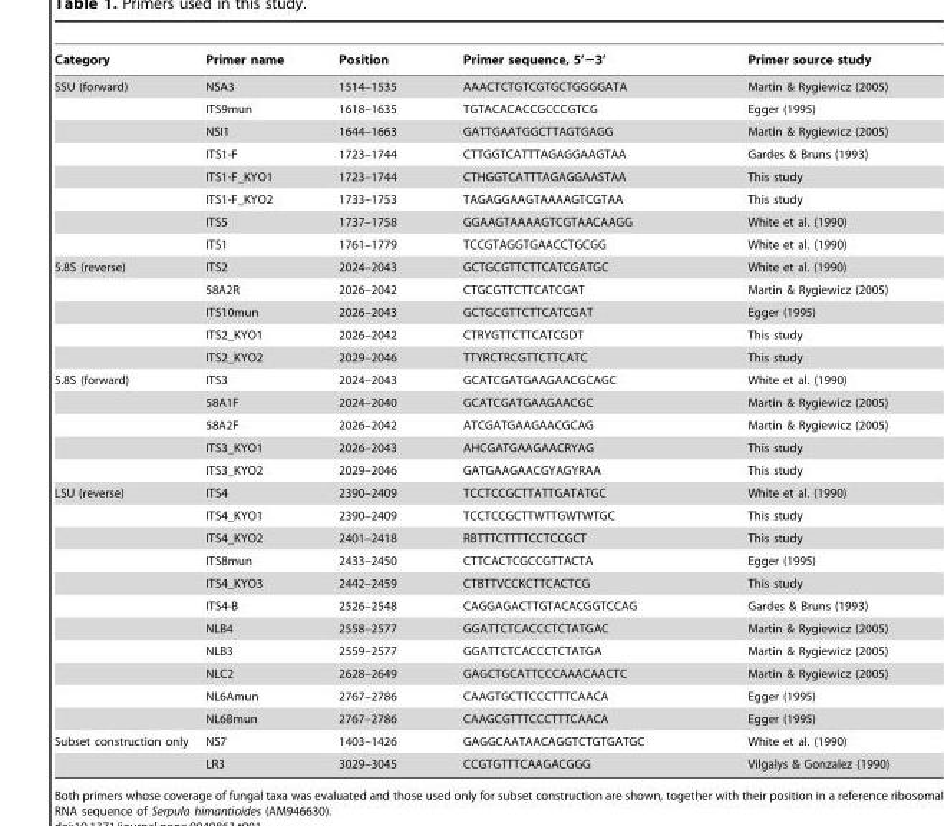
<table><thead><tr><td>Category</td><td>Primer name</td><td>Position</td><td>Primer sequence, 5’−3’</td><td>Primer source study</td></tr></thead><tbody><tr><td rowspan="8">SSU (forward)</td><td>NSA3</td><td>1514–1535</td><td>AAACTCTGTCGTGCTGGGGATA</td><td>Martin &amp; Rygiewicz (2005)</td></tr><tr><td>ITS9mun</td><td>1618–1635</td><td>TGTACACACCGCCCGTCG</td><td>Egger (1995)</td></tr><tr><td>NSI1</td><td>1644–1663</td><td>GATTGAATGGCTTAGTGAGG</td><td>Martin &amp; Rygiewicz (2005)</td></tr><tr><td>ITS1-F</td><td>1723–1744</td><td>CTTGGTCATTTAGAGGAAGTAA</td><td>Gardes &amp; Bruns (1993)</td></tr><tr><td>ITS1-F_KYO1</td><td>1723–1744</td><td>CTHGGTCATTTAGAGGAASTAA</td><td>This study</td></tr><tr><td>ITS1-F_KYO2</td><td>1733–1753</td><td>TAGAGGAAGTAAAAGTCGTAA</td><td>This study</td></tr><tr><td>ITS5</td><td>1737–1758</td><td>GGAAGTAAAAGTCGTAACAAGG</td><td>White et al. (1990)</td></tr><tr><td>ITS1</td><td>1761–1779</td><td>TCCGTAGGTGAACCTGCGG</td><td>White et al. (1990)</td></tr><tr><td rowspan="5">5.8S (reverse)</td><td>ITS2</td><td>2024–2043</td><td>GCTGCGTTCTTCATCGATGC</td><td>White et al. (1990)</td></tr><tr><td>58A2R</td><td>2026–2042</td><td>CTGCGTTCTTCATCGAT</td><td>Martin &amp; Rygiewicz (2005)</td></tr><tr><td>ITS10mun</td><td>2026–2043</td><td>GCTGCGTTCTTCATCGAT</td><td>Egger (1995)</td></tr><tr><td>ITS2_KYO1</td><td>2026–2042</td><td>CTRYGTTCTTCATCGDT</td><td>This study</td></tr><tr><td>ITS2_KYO2</td><td>2029–2046</td><td>TTYRCTRCGTTCTTCATC</td><td>This study</td></tr><tr><td rowspan="5">5.8S (forward)</td><td>ITS3</td><td>2024–2043</td><td>GCATCGATGAAGAACGCAGC</td><td>White et al. (1990)</td></tr><tr><td>58A1F</td><td>2024–2040</td><td>GCATCGATGAAGAACGC</td><td>Martin &amp; Rygiewicz (2005)</td></tr><tr><td>58A2F</td><td>2026–2042</td><td>ATCGATGAAGAACGCAG</td><td>Martin &amp; Rygiewicz (2005)</td></tr><tr><td>ITS3_KYO1</td><td>2026–2043</td><td>AHCGATGAAGAACRYAG</td><td>This study</td></tr><tr><td>ITS3_KYO2</td><td>2029–2046</td><td>GATGAAGAACGYAGYRAA</td><td>This study</td></tr><tr><td rowspan="11">LSU (reverse)</td><td>ITS4</td><td>2390–2409</td><td>TCCTCCGCTTATTGATATGC</td><td>White et al. (1990)</td></tr><tr><td>ITS4_KYO1</td><td>2390–2409</td><td>TCCTCCGCTTWTTGWTWTGC</td><td>This study</td></tr><tr><td>ITS4_KYO2</td><td>2401–2418</td><td>RBTTTCTTTTCCTCCGCT</td><td>This study</td></tr><tr><td>ITS8mun</td><td>2433–2450</td><td>CTTCACTCGCCGTTACTA</td><td>Egger (1995)</td></tr><tr><td>ITS4_KYO3</td><td>2442–2459</td><td>CTBTTVCCKCTTCACTCG</td><td>This study</td></tr><tr><td>ITS4-B</td><td>2526–2548</td><td>CAGGAGACTTGTACACGGTCCAG</td><td>Gardes &amp; Bruns (1993)</td></tr><tr><td>NLB4</td><td>2558–2577</td><td>GGATTCTCACCCTCTATGAC</td><td>Martin &amp; Rygiewicz (2005)</td></tr><tr><td>NLB3</td><td>2559–2577</td><td>GGATTCTCACCCTCTATGA</td><td>Martin &amp; Rygiewicz (2005)</td></tr><tr><td>NLC2</td><td>2628–2649</td><td>GAGCTGCATTCCCAAACAACTC</td><td>Martin &amp; Rygiewicz (2005)</td></tr><tr><td>NL6Amun</td><td>2767–2786</td><td>CAAGTGCTTCCCTTTCAACA</td><td>Egger (1995)</td></tr><tr><td>NL6Bmun</td><td>2767–2786</td><td>CAAGCGTTTCCCTTTCAACA</td><td>Egger (1995)</td></tr><tr><td rowspan="2">Subset construction only</td><td>NS7</td><td>1403–1426</td><td>GAGGCAATAACAGGTCTGTGATGC</td><td>White et al. (1990)</td></tr><tr><td>LR3</td><td>3029–3045</td><td>CCGTGTTTCAAGACGGG</td><td>Vilgalys &amp; Gonzalez (1990)</td></tr></tbody></table>